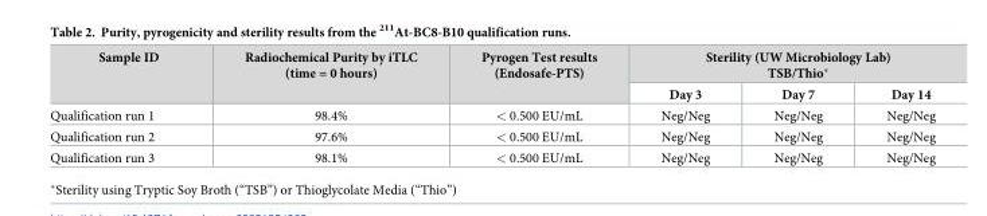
<table><thead><tr><td rowspan="2">Sample ID</td><td rowspan="2">Radiochemical Purity by iTLC (time = 0 hours)</td><td rowspan="2">Pyrogen Test results (Endosafe-PTS)</td><td colspan="3">Sterility (UW Microbiology Lab) TSB/Thio*</td></tr><tr><td>Day 3</td><td>Day 7</td><td>Day 14</td></tr></thead><tbody><tr><td>Qualification run 1</td><td>98.4%</td><td>&lt; 0.500 EU/mL</td><td>Neg/Neg</td><td>Neg/Neg</td><td>Neg/Neg</td></tr><tr><td>Qualification run 2</td><td>97.6%</td><td>&lt; 0.500 EU/mL</td><td>Neg/Neg</td><td>Neg/Neg</td><td>Neg/Neg</td></tr><tr><td>Qualification run 3</td><td>98.1%</td><td>&lt; 0.500 EU/mL</td><td>Neg/Neg</td><td>Neg/Neg</td><td>Neg/Neg</td></tr></tbody></table>